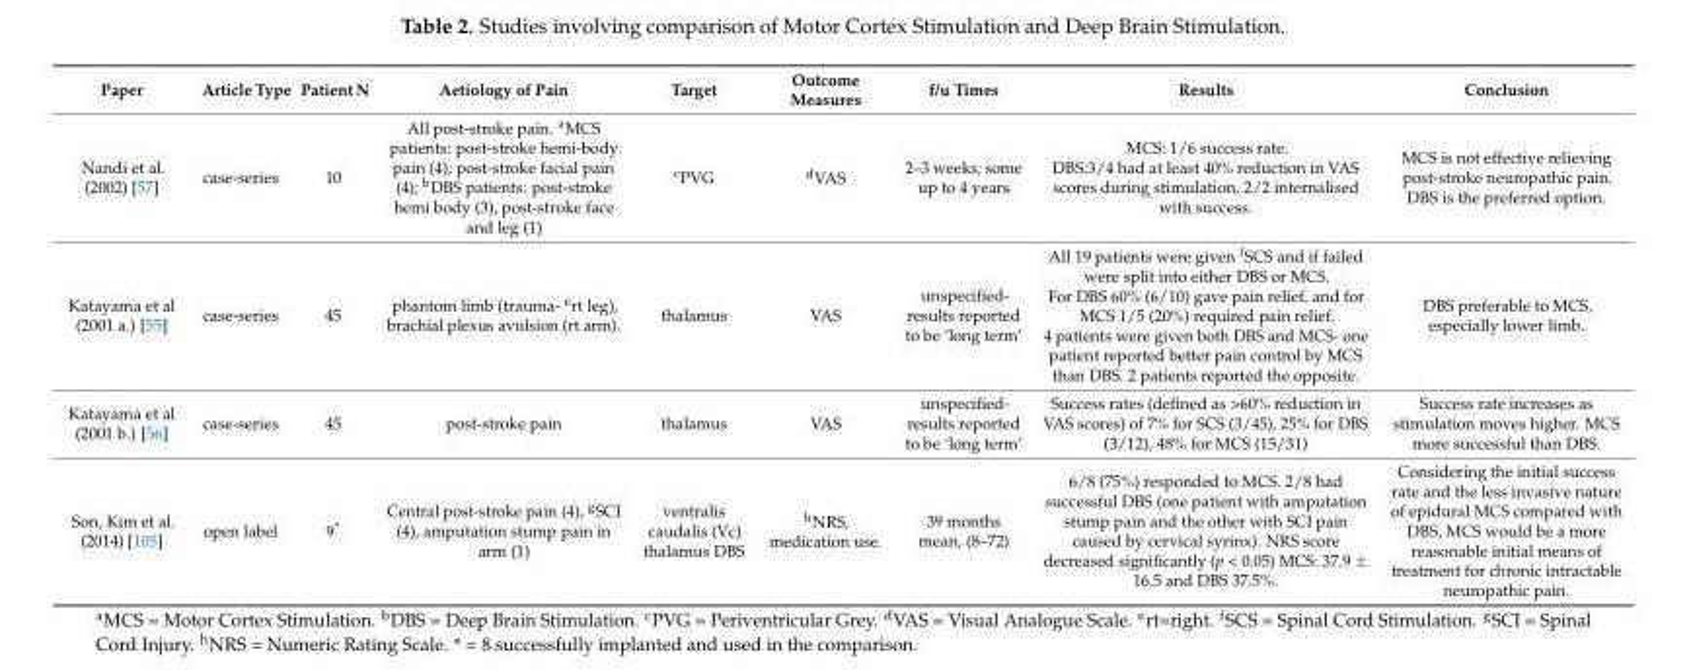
<table><thead><tr><td>Paper</td><td>Article Type</td><td>Patient N</td><td>Aetiology of Pain</td><td>Target</td><td>Outcome Measures</td><td>f/u Times</td><td>Results</td><td>Conclusion</td></tr></thead><tbody><tr><td>Nandi et al. (2002) [57]</td><td>case-series</td><td>10</td><td>All post-stroke pain. <sup>a</sup>MCS patients: post-stroke hemi-body pain (4); post-stroke facial pain (4); <sup>b</sup>DBS patients: post-stroke hemi body (3), post-stroke face and leg (1)</td><td><sup>c</sup>PVG</td><td><sup>d</sup>VAS</td><td>2–3 weeks; some up to 4 years</td><td>MCS: 1/6 success rate. DBS:3/4 had at least 40% reduction in VAS scores during stimulation, 2/2 internalised with success.</td><td>MCS is not effective relieving post-stroke neuropathic pain. DBS is the preferred option.</td></tr><tr><td>Katayama et al (2001 a.) [55]</td><td>case-series</td><td>45</td><td>phantom limb (trauma- <sup>e</sup>rt leg), brachial plexus avulsion (rt arm).</td><td>thalamus</td><td>VAS</td><td>unspecified- results reported to be ‘long term’</td><td>All 19 patients were given <sup>f</sup>SCS and if failed were split into either DBS or MCS. For DBS 60% (6/10) gave pain relief, and for MCS 1/5 (20%) required pain relief. 4 patients were given both DBS and MCS- one patient reported better pain control by MCS than DBS. 2 patients reported the opposite.</td><td>DBS preferable to MCS, especially lower limb.</td></tr><tr><td>Katayama et al (2001 b.) [56]</td><td>case-series</td><td>45</td><td>post-stroke pain</td><td>thalamus</td><td>VAS</td><td>unspecified- results reported to be ‘long term’</td><td>Success rates (defined as &gt;60% reduction in VAS scores) of 7% for SCS (3/45), 25% for DBS (3/12), 48% for MCS (15/31)</td><td>Success rate increases as stimulation moves higher. MCS more successful than DBS.</td></tr><tr><td>Son, Kim et al. (2014) [105]</td><td>open label</td><td>9*</td><td>Central post-stroke pain (4), <sup>g</sup>SCI (4), amputation stump pain in arm (1)</td><td>ventralis caudalis (Vc) thalamus DBS</td><td><sup>h</sup>NRS, medication use.</td><td>39 months mean, (8–72)</td><td>6/8 (75%) responded to MCS. 2/8 had successful DBS (one patient with amputation stump pain and the other with SCI pain caused by cervical syrinx). NRS score decreased significantly (p &lt; 0.05) MCS: 37.9 ± 16.5 and DBS 37.5%.</td><td>Considering the initial success rate and the less invasive nature of epidural MCS compared with DBS, MCS would be a more reasonable initial means of treatment for chronic intractable neuropathic pain.</td></tr></tbody></table>